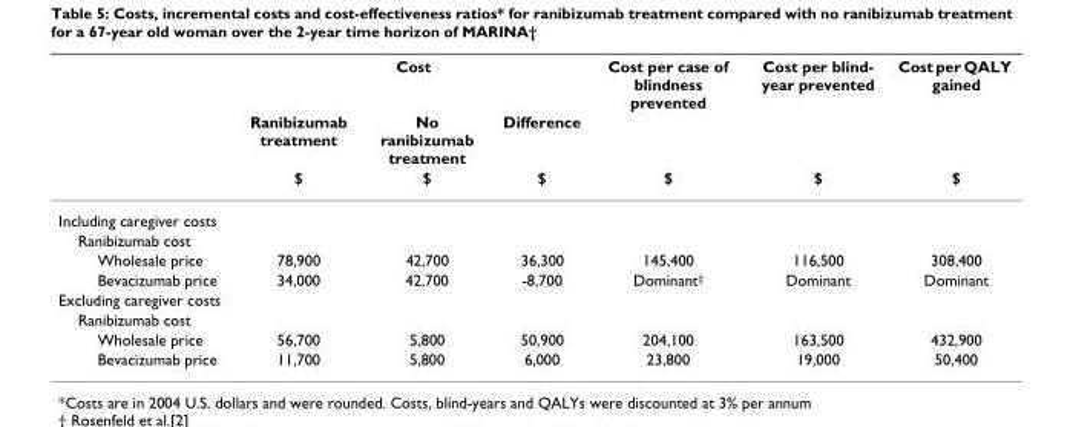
<table><thead><tr><td rowspan="3"></td><td colspan="3">Cost</td><td rowspan="3">Cost per case of blindness prevented $</td><td rowspan="3">Cost per blind- year prevented $</td><td rowspan="3">Cost per QALY gained $</td></tr><tr><td rowspan="2">Ranibizumab treatment $</td><td rowspan="2">No ranibizumab treatment $</td><td rowspan="2">Difference $</td></tr><tr></tr></thead><tbody><tr><td colspan="7">Including caregiver costs</td></tr><tr><td colspan="7">Ranibizumab cost</td></tr><tr><td>Wholesale price</td><td>78,900</td><td>42,700</td><td>36,300</td><td>145,400</td><td>116,500</td><td>308,400</td></tr><tr><td>Bevacizumab price</td><td>34,000</td><td>42,700</td><td>-8,700</td><td>Dominant<sup>‡</sup></td><td>Dominant</td><td>Dominant</td></tr><tr><td colspan="7">Excluding caregiver costs</td></tr><tr><td colspan="7">Ranibizumab cost</td></tr><tr><td>Wholesale price</td><td>56,700</td><td>5,800</td><td>50,900</td><td>204,100</td><td>163,500</td><td>432,900</td></tr><tr><td>Bevacizumab price</td><td>11,700</td><td>5,800</td><td>6,000</td><td>23,800</td><td>19,000</td><td>50,400</td></tr></tbody></table>